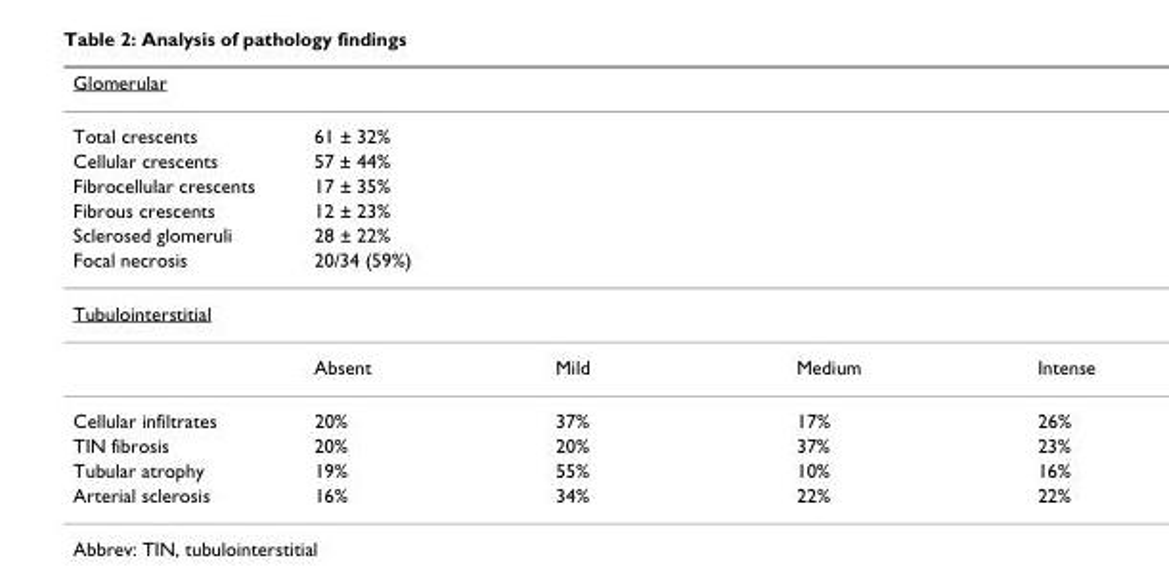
<table><thead><tr><td>Glomerular</td><td></td><td></td><td></td><td></td></tr></thead><tbody><tr><td>Total crescents</td><td>61 ± 32%</td><td></td><td></td><td></td></tr><tr><td>Cellular crescents</td><td>57 ± 44%</td><td></td><td></td><td></td></tr><tr><td>Fibrocellular crescents</td><td>17 ± 35%</td><td></td><td></td><td></td></tr><tr><td>Fibrous crescents</td><td>12 ± 23%</td><td></td><td></td><td></td></tr><tr><td>Sclerosed glomeruli</td><td>28 ± 22%</td><td></td><td></td><td></td></tr><tr><td>Focal necrosis</td><td>20/34 (59%)</td><td></td><td></td><td></td></tr><tr><td colspan="5">Tubulointerstitial</td></tr><tr><td></td><td>Absent</td><td>Mild</td><td>Medium</td><td>Intense</td></tr><tr><td>Cellular infiltrates</td><td>20%</td><td>37%</td><td>17%</td><td>26%</td></tr><tr><td>TIN fibrosis</td><td>20%</td><td>20%</td><td>37%</td><td>23%</td></tr><tr><td>Tubular atrophy</td><td>19%</td><td>55%</td><td>10%</td><td>16%</td></tr><tr><td>Arterial sclerosis</td><td>16%</td><td>34%</td><td>22%</td><td>22%</td></tr></tbody></table>